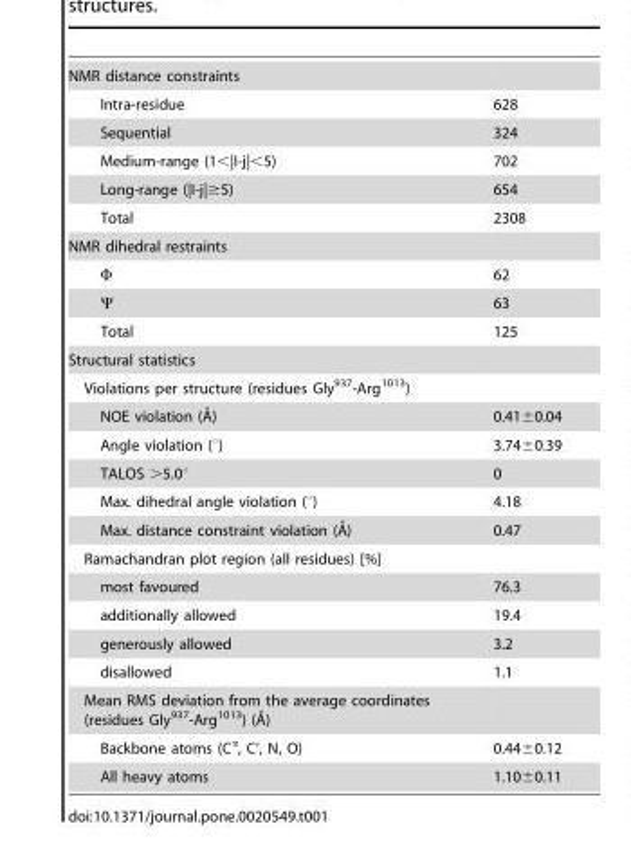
<table><tbody><tr><td colspan="2">NMR distance constraints</td></tr><tr><td>Intra-residue</td><td>628</td></tr><tr><td>Sequential</td><td>324</td></tr><tr><td>Medium-range (1&lt;|I-j|&lt;5)</td><td>702</td></tr><tr><td>Long-range (|I-j|≥5)</td><td>654</td></tr><tr><td>Total</td><td>2308</td></tr><tr><td colspan="2">NMR dihedral restraints</td></tr><tr><td>Φ</td><td>62</td></tr><tr><td>Ψ</td><td>63</td></tr><tr><td>Total</td><td>125</td></tr><tr><td colspan="2">Structural statistics</td></tr><tr><td colspan="2">Violations per structure (residues Gly<sup>937</sup>-Arg<sup>1013</sup>)</td></tr><tr><td>NOE violation (A˚)</td><td>0.41±0.04</td></tr><tr><td>Angle violation (°)</td><td>3.74±0.39</td></tr><tr><td>TALOS &gt;5.0°</td><td>0</td></tr><tr><td>Max. dihedral angle violation (°)</td><td>4.18</td></tr><tr><td>Max. distance constraint violation (A˚)</td><td>0.47</td></tr><tr><td colspan="2">Ramachandran plot region (all residues) [%]</td></tr><tr><td>most favoured</td><td>76.3</td></tr><tr><td>additionally allowed</td><td>19.4</td></tr><tr><td>generously allowed</td><td>3.2</td></tr><tr><td>disallowed</td><td>1.1</td></tr><tr><td colspan="2">Mean RMS deviation from the average coordinates (residues Gly937-Arg1013) (A˚)</td></tr><tr><td>Backbone atoms (C<sup>α</sup>, C’, N, O)</td><td>0.44±0.12</td></tr><tr><td>All heavy atoms</td><td>1.10±0.11</td></tr></tbody></table>